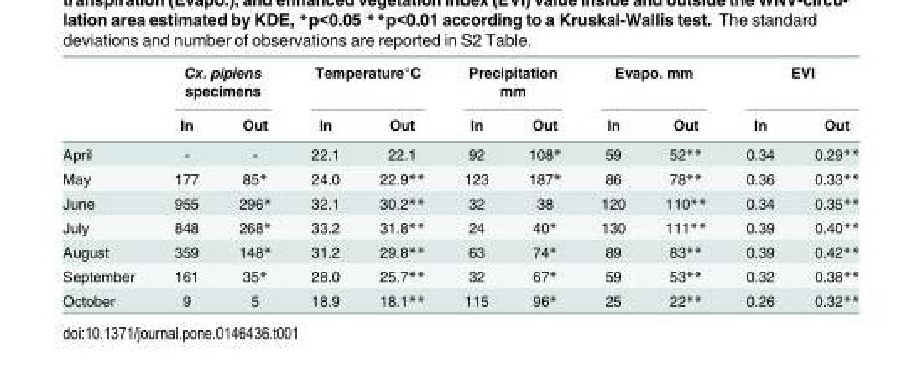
<table><thead><tr><td rowspan="2"></td><td colspan="2">Cx. pipiens specimens</td><td colspan="2">Temperature°C</td><td colspan="2">Precipitation mm</td><td colspan="2">Evapo. mm</td><td colspan="2">EVI</td></tr><tr><td>In</td><td>Out</td><td>In</td><td>Out</td><td>In</td><td>Out</td><td>In</td><td>Out</td><td>In</td><td>Out</td></tr></thead><tbody><tr><td>April</td><td>-</td><td>-</td><td>22.1</td><td>22.1</td><td>92</td><td>108*</td><td>59</td><td>52**</td><td>0.34</td><td>0.29**</td></tr><tr><td>May</td><td>177</td><td>85*</td><td>24.0</td><td>22.9**</td><td>123</td><td>187*</td><td>86</td><td>78**</td><td>0.36</td><td>0.33**</td></tr><tr><td>June</td><td>955</td><td>296*</td><td>32.1</td><td>30.2**</td><td>32</td><td>38</td><td>120</td><td>110**</td><td>0.34</td><td>0.35**</td></tr><tr><td>July</td><td>848</td><td>268*</td><td>33.2</td><td>31.8**</td><td>24</td><td>40*</td><td>130</td><td>111**</td><td>0.39</td><td>0.40**</td></tr><tr><td>August</td><td>359</td><td>148*</td><td>31.2</td><td>29.8**</td><td>63</td><td>74*</td><td>89</td><td>83**</td><td>0.39</td><td>0.42**</td></tr><tr><td>September</td><td>161</td><td>35*</td><td>28.0</td><td>25.7**</td><td>32</td><td>67*</td><td>59</td><td>53**</td><td>0.32</td><td>0.38**</td></tr><tr><td>October</td><td>9</td><td>5</td><td>18.9</td><td>18.1**</td><td>115</td><td>96*</td><td>25</td><td>22**</td><td>0.26</td><td>0.32**</td></tr></tbody></table>